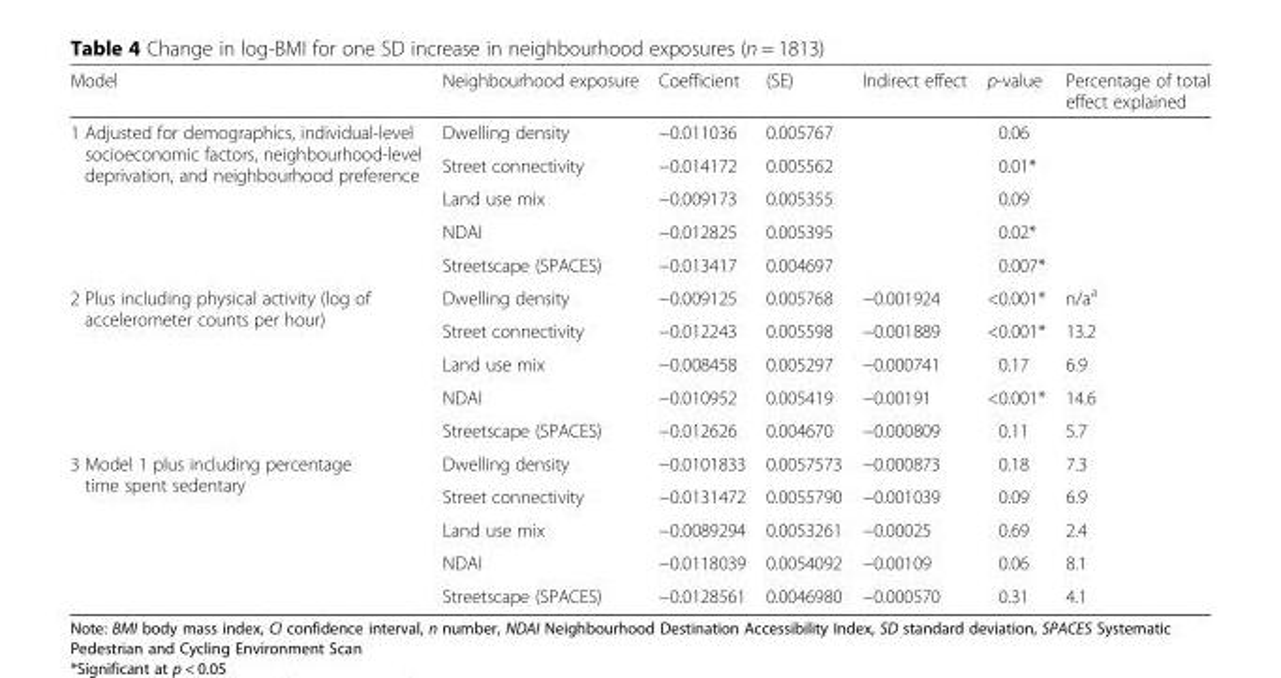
<table><thead><tr><td>Model</td><td>Neighbourhood exposure</td><td>Coefficient</td><td>(SE)</td><td>Indirect effect</td><td>p-value</td><td>Percentage of total effect explained</td></tr></thead><tbody><tr><td rowspan="5">1 Adjusted for demographics, individual-level socioeconomic factors, neighbourhood-level deprivation, and neighbourhood preference</td><td>Dwelling density</td><td>−0.011036</td><td>0.005767</td><td></td><td>0.06</td><td></td></tr><tr><td>Street connectivity</td><td>−0.014172</td><td>0.005562</td><td></td><td>0.01*</td><td></td></tr><tr><td>Land use mix</td><td>−0.009173</td><td>0.005355</td><td></td><td>0.09</td><td></td></tr><tr><td>NDAI</td><td>−0.012825</td><td>0.005395</td><td></td><td>0.02*</td><td></td></tr><tr><td>Streetscape (SPACES)</td><td>−0.013417</td><td>0.004697</td><td></td><td>0.007*</td><td></td></tr><tr><td rowspan="5">2 Plus including physical activity (log of accelerometer counts per hour)</td><td>Dwelling density</td><td>−0.009125</td><td>0.005768</td><td>−0.001924</td><td>&lt;0.001*</td><td>n/a<sup>a</sup></td></tr><tr><td>Street connectivity</td><td>−0.012243</td><td>0.005598</td><td>−0.001889</td><td>&lt;0.001*</td><td>13.2</td></tr><tr><td>Land use mix</td><td>−0.008458</td><td>0.005297</td><td>−0.000741</td><td>0.17</td><td>6.9</td></tr><tr><td>NDAI</td><td>−0.010952</td><td>0.005419</td><td>−0.00191</td><td>&lt;0.001*</td><td>14.6</td></tr><tr><td>Streetscape (SPACES)</td><td>−0.012626</td><td>0.004670</td><td>−0.000809</td><td>0.11</td><td>5.7</td></tr><tr><td rowspan="5">3 Model 1 plus including percentage time spent sedentary</td><td>Dwelling density</td><td>−0.0101833</td><td>0.0057573</td><td>−0.000873</td><td>0.18</td><td>7.3</td></tr><tr><td>Street connectivity</td><td>−0.0131472</td><td>0.0055790</td><td>−0.001039</td><td>0.09</td><td>6.9</td></tr><tr><td>Land use mix</td><td>−0.0089294</td><td>0.0053261</td><td>−0.00025</td><td>0.69</td><td>2.4</td></tr><tr><td>NDAI</td><td>−0.0118039</td><td>0.0054092</td><td>−0.00109</td><td>0.06</td><td>8.1</td></tr><tr><td>Streetscape (SPACES)</td><td>−0.0128561</td><td>0.0046980</td><td>−0.000570</td><td>0.31</td><td>4.1</td></tr></tbody></table>